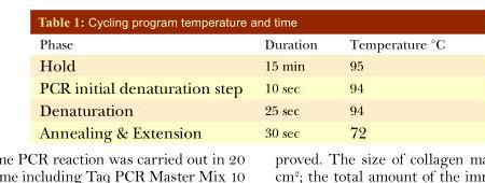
<table><thead><tr><td>Phase</td><td>Duration</td><td>Temperature °C</td></tr></thead><tbody><tr><td>Hold</td><td>15 min</td><td>95</td></tr><tr><td>PCR initial denaturation step</td><td>10 sec</td><td>94</td></tr><tr><td>Denaturation</td><td>25 sec</td><td>94</td></tr><tr><td>Annealing &amp; Extension</td><td>30 sec</td><td>72</td></tr></tbody></table>